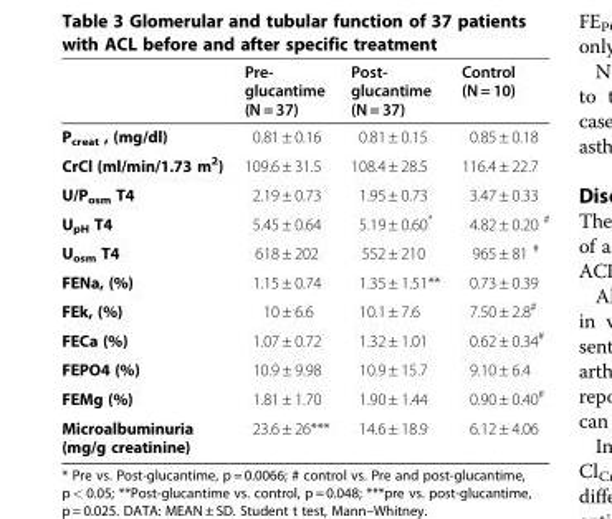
<table><thead><tr><td></td><td>Pre- glucantime (N = 37)</td><td>Post- glucantime (N = 37)</td><td>Control (N = 10)</td></tr></thead><tbody><tr><td>P<sub>creat</sub> , (mg/dl)</td><td>0.81 ± 0.16</td><td>0.81 ± 0.15</td><td>0.85 ± 0.18</td></tr><tr><td>CrCl (ml/min/1.73 m<sup>2</sup>)</td><td>109.6 ± 31.5</td><td>108.4 ± 28.5</td><td>116.4 ± 22.7</td></tr><tr><td>U/P<sub>osm</sub> T4</td><td>2.19 ± 0.73</td><td>1.95 ± 0.73</td><td>3.47 ± 0.33</td></tr><tr><td>U<sub>pH</sub> T4</td><td>5.45 ± 0.64</td><td>5.19 ± 0.60*</td><td>4.82 ± 0.20 <sup>#</sup></td></tr><tr><td>U<sub>osm</sub> T4</td><td>618 ± 202</td><td>552 ± 210</td><td>965 ± 81 <sup>#</sup></td></tr><tr><td>FENa, (%)</td><td>1.15 ± 0.74</td><td>1.35 ± 1.51**</td><td>0.73 ± 0.39</td></tr><tr><td>FEk, (%)</td><td>10 ± 6.6</td><td>10.1 ± 7.6</td><td>7.50 ± 2.8<sup>#</sup></td></tr><tr><td>FECa (%)</td><td>1.07 ± 0.72</td><td>1.32 ± 1.01</td><td>0.62 ± 0.34<sup>#</sup></td></tr><tr><td>FEPO4 (%)</td><td>10.9 ± 9.98</td><td>10.9 ± 15.7</td><td>9.10 ± 6.4</td></tr><tr><td>FEMg (%)</td><td>1.81 ± 1.70</td><td>1.90 ± 1.44</td><td>0.90 ± 0.40<sup>#</sup></td></tr><tr><td>Microalbuminuria (mg/g creatinine)</td><td>23.6 ± 26***</td><td>14.6 ± 18.9</td><td>6.12 ± 4.06</td></tr></tbody></table>